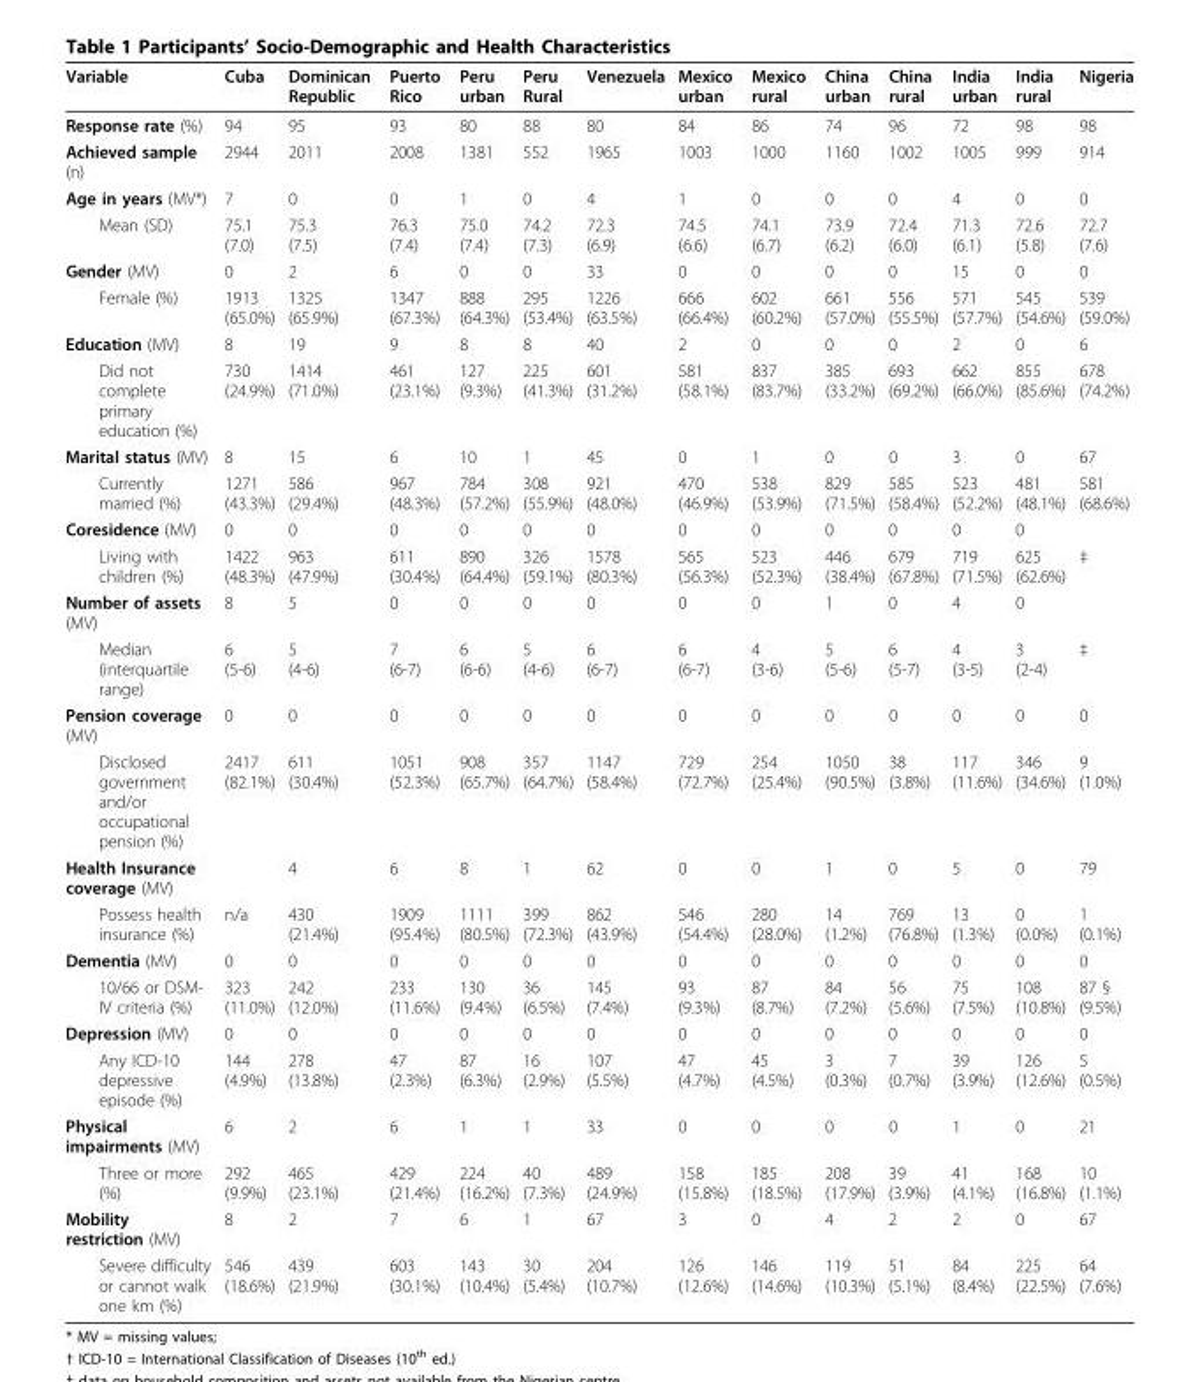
<table><thead><tr><td>Variable</td><td>Cuba</td><td>Dominican Republic</td><td>Puerto Rico</td><td>Peru urban</td><td>Peru Rural</td><td>Venezuela</td><td>Mexico urban</td><td>Mexico rural</td><td>China urban</td><td>China rural</td><td>India urban</td><td>India rural</td><td>Nigeria</td></tr></thead><tbody><tr><td>Response rate (%)</td><td>94</td><td>95</td><td>93</td><td>80</td><td>88</td><td>80</td><td>84</td><td>86</td><td>74</td><td>96</td><td>72</td><td>98</td><td>98</td></tr><tr><td>Achieved sample (n)</td><td>2944</td><td>2011</td><td>2008</td><td>1381</td><td>552</td><td>1965</td><td>1003</td><td>1000</td><td>1160</td><td>1002</td><td>1005</td><td>999</td><td>914</td></tr><tr><td>Age in years (MV*)</td><td>7</td><td>0</td><td>0</td><td>1</td><td>0</td><td>4</td><td>1</td><td>0</td><td>0</td><td>0</td><td>4</td><td>0</td><td>0</td></tr><tr><td>Mean (SD)</td><td>75.1 (7.0)</td><td>75.3 (7.5)</td><td>76.3 (7.4)</td><td>75.0 (7.4)</td><td>74.2 (7.3)</td><td>72.3 (6.9)</td><td>74.5 (6.6)</td><td>74.1 (6.7)</td><td>73.9 (6.2)</td><td>72.4 (6.0)</td><td>71.3 (6.1)</td><td>72.6 (5.8)</td><td>72.7 (7.6)</td></tr><tr><td>Gender (MV)</td><td>0</td><td>2</td><td>6</td><td>0</td><td>0</td><td>33</td><td>0</td><td>0</td><td>0</td><td>0</td><td>15</td><td>0</td><td>0</td></tr><tr><td>Female (%)</td><td>1913 (65.0%)</td><td>1325 (65.9%)</td><td>1347 (67.3%)</td><td>888 (64.3%)</td><td>295 (53.4%)</td><td>1226 (63.5%)</td><td>666 (66.4%)</td><td>602 (60.2%)</td><td>661 (57.0%)</td><td>556 (55.5%)</td><td>571 (57.7%)</td><td>545 (54.6%)</td><td>539 (59.0%)</td></tr><tr><td>Education (MV)</td><td>8</td><td>19</td><td>9</td><td>8</td><td>8</td><td>40</td><td>2</td><td>0</td><td>0</td><td>0</td><td>2</td><td>0</td><td>6</td></tr><tr><td>Did not complete primary education (%)</td><td>730 (24.9%)</td><td>1414 (71.0%)</td><td>461 (23.1%)</td><td>127 (9.3%)</td><td>225 (41.3%)</td><td>601 (31.2%)</td><td>581 (58.1%)</td><td>837 (83.7%)</td><td>385 (33.2%)</td><td>693 (69.2%)</td><td>662 (66.0%)</td><td>855 (85.6%)</td><td>678 (74.2%)</td></tr><tr><td>Marital status (MV)</td><td>8</td><td>15</td><td>6</td><td>10</td><td>1</td><td>45</td><td>0</td><td>1</td><td>0</td><td>0</td><td>3</td><td>0</td><td>67</td></tr><tr><td>Currently married (%)</td><td>1271 (43.3%)</td><td>586 (29.4%)</td><td>967 (48.3%)</td><td>784 (57.2%)</td><td>308 (55.9%)</td><td>921 (48.0%)</td><td>470 (46.9%)</td><td>538 (53.9%)</td><td>829 (71.5%)</td><td>585 (58.4%)</td><td>523 (52.2%)</td><td>481 (48.1%)</td><td>581 (68.6%)</td></tr><tr><td>Coresidence (MV)</td><td>0</td><td>0</td><td>0</td><td>0</td><td>0</td><td>0</td><td>0</td><td>0</td><td>0</td><td>0</td><td>0</td><td>0</td><td></td></tr><tr><td>Living with children (%)</td><td>1422 (48.3%)</td><td>963 (47.9%)</td><td>611 (30.4%)</td><td>890 (64.4%)</td><td>326 (59.1%)</td><td>1578 (80.3%)</td><td>565 (56.3%)</td><td>523 (52.3%)</td><td>446 (38.4%)</td><td>679 (67.8%)</td><td>719 (71.5%)</td><td>625 (62.6%)</td><td>‡</td></tr><tr><td>Number of assets (MV)</td><td>8</td><td>5</td><td>0</td><td>0</td><td>0</td><td>0</td><td>0</td><td>0</td><td>1</td><td>0</td><td>4</td><td>0</td><td></td></tr><tr><td>Median (interquartile range)</td><td>6 (5-6)</td><td>5 (4-6)</td><td>7 (6-7)</td><td>6 (6-6)</td><td>5 (4-6)</td><td>6 (6-7)</td><td>6 (6-7)</td><td>4 (3-6)</td><td>5 (5-6)</td><td>6 (5-7)</td><td>4 (3-5)</td><td>3 (2-4)</td><td>‡</td></tr><tr><td>Pension coverage (MV)</td><td>0</td><td>0</td><td>0</td><td>0</td><td>0</td><td>0</td><td>0</td><td>0</td><td>0</td><td>0</td><td>0</td><td>0</td><td>0</td></tr><tr><td>Disclosed government and/or occupational pension (%)</td><td>2417 (82.1%)</td><td>611 (30.4%)</td><td>1051 (52.3%)</td><td>908 (65.7%)</td><td>357 (64.7%)</td><td>1147 (58.4%)</td><td>729 (72.7%)</td><td>254 (25.4%)</td><td>1050 (90.5%)</td><td>38 (3.8%)</td><td>117 (11.6%)</td><td>346 (34.6%)</td><td>9 (1.0%)</td></tr><tr><td>Health Insurance coverage (MV)</td><td></td><td>4</td><td>6</td><td>8</td><td>1</td><td>62</td><td>0</td><td>0</td><td>1</td><td>0</td><td>5</td><td>0</td><td>79</td></tr><tr><td>Possess health insurance (%)</td><td>n/a</td><td>430 (21.4%)</td><td>1909 (95.4%)</td><td>1111 (80.5%)</td><td>399 (72.3%)</td><td>862 (43.9%)</td><td>546 (54.4%)</td><td>280 (28.0%)</td><td>14 (1.2%)</td><td>769 (76.8%)</td><td>13 (1.3%)</td><td>0 (0.0%)</td><td>1 (0.1%)</td></tr><tr><td>Dementia (MV)</td><td>0</td><td>0</td><td>0</td><td>0</td><td>0</td><td>0</td><td>0</td><td>0</td><td>0</td><td>0</td><td>0</td><td>0</td><td>0</td></tr><tr><td>10/66 or DSM- IV criteria (%)</td><td>323 (11.0%)</td><td>242 (12.0%)</td><td>233 (11.6%)</td><td>130 (9.4%)</td><td>36 (6.5%)</td><td>145 (7.4%)</td><td>93 (9.3%)</td><td>87 (8.7%)</td><td>84 (7.2%)</td><td>56 (5.6%)</td><td>75 (7.5%)</td><td>108 (10.8%)</td><td>87 § (9.5%)</td></tr><tr><td>Depression (MV)</td><td>0</td><td>0</td><td>0</td><td>0</td><td>0</td><td>0</td><td>0</td><td>0</td><td>0</td><td>0</td><td>0</td><td>0</td><td>0</td></tr><tr><td>Any ICD-10 depressive episode (%)</td><td>144 (4.9%)</td><td>278 (13.8%)</td><td>47 (2.3%)</td><td>87 (6.3%)</td><td>16 (2.9%)</td><td>107 (5.5%)</td><td>47 (4.7%)</td><td>45 (4.5%)</td><td>3 (0.3%)</td><td>7 (0.7%)</td><td>39 (3.9%)</td><td>126 (12.6%)</td><td>5 (0.5%)</td></tr><tr><td>Physical impairments (MV)</td><td>6</td><td>2</td><td>6</td><td>1</td><td>1</td><td>33</td><td>0</td><td>0</td><td>0</td><td>0</td><td>1</td><td>0</td><td>21</td></tr><tr><td>Three or more (%)</td><td>292 (9.9%)</td><td>465 (23.1%)</td><td>429 (21.4%)</td><td>224 (16.2%)</td><td>40 (7.3%)</td><td>489 (24.9%)</td><td>158 (15.8%)</td><td>185 (18.5%)</td><td>208 (17.9%)</td><td>39 (3.9%)</td><td>41 (4.1%)</td><td>168 (16.8%)</td><td>10 (1.1%)</td></tr><tr><td>Mobility restriction (MV)</td><td>8</td><td>2</td><td>7</td><td>6</td><td>1</td><td>67</td><td>3</td><td>0</td><td>4</td><td>2</td><td>2</td><td>0</td><td>67</td></tr><tr><td>Severe difficulty or cannot walk one km (%)</td><td>546 (18.6%)</td><td>439 (21.9%)</td><td>603 (30.1%)</td><td>143 (10.4%)</td><td>30 (5.4%)</td><td>204 (10.7%)</td><td>126 (12.6%)</td><td>146 (14.6%)</td><td>119 (10.3%)</td><td>51 (5.1%)</td><td>84 (8.4%)</td><td>225 (22.5%)</td><td>64 (7.6%)</td></tr></tbody></table>